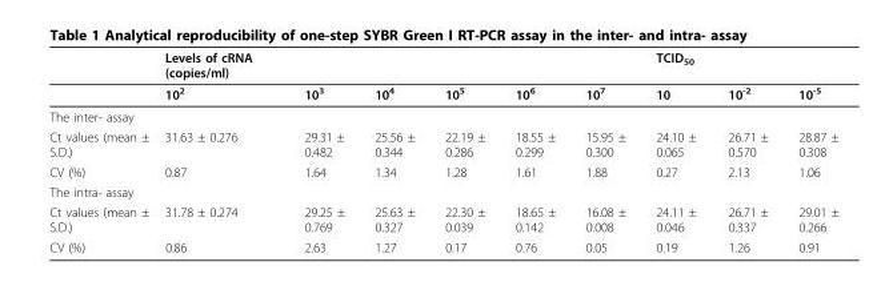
<table><thead><tr><td></td><td>Levels of cRNA (copies/ml)</td><td></td><td></td><td></td><td></td><td></td><td>TCID<sub>50</sub></td><td></td><td></td></tr></thead><tbody><tr><td></td><td>10<sup>2</sup></td><td>10<sup>3</sup></td><td>10<sup>4</sup></td><td>10<sup>5</sup></td><td>10<sup>6</sup></td><td>10<sup>7</sup></td><td>10</td><td>10<sup>-2</sup></td><td>10<sup>-5</sup></td></tr><tr><td colspan="10">The inter- assay</td></tr><tr><td>Ct values (mean ± S.D.)</td><td>31.63 ± 0.276</td><td>29.31 ± 0.482</td><td>25.56 ± 0.344</td><td>22.19 ± 0.286</td><td>18.55 ± 0.299</td><td>15.95 ± 0.300</td><td>24.10 ± 0.065</td><td>26.71 ± 0.570</td><td>28.87 ± 0.308</td></tr><tr><td>CV (%)</td><td>0.87</td><td>1.64</td><td>1.34</td><td>1.28</td><td>1.61</td><td>1.88</td><td>0.27</td><td>2.13</td><td>1.06</td></tr><tr><td colspan="10">The intra- assay</td></tr><tr><td>Ct values (mean ± S.D.)</td><td>31.78 ± 0.274</td><td>29.25 ± 0.769</td><td>25.63 ± 0.327</td><td>22.30 ± 0.039</td><td>18.65 ± 0.142</td><td>16.08 ± 0.008</td><td>24.11 ± 0.046</td><td>26.71 ± 0.337</td><td>29.01 ± 0.266</td></tr><tr><td>CV (%)</td><td>0.86</td><td>2.63</td><td>1.27</td><td>0.17</td><td>0.76</td><td>0.05</td><td>0.19</td><td>1.26</td><td>0.91</td></tr></tbody></table>